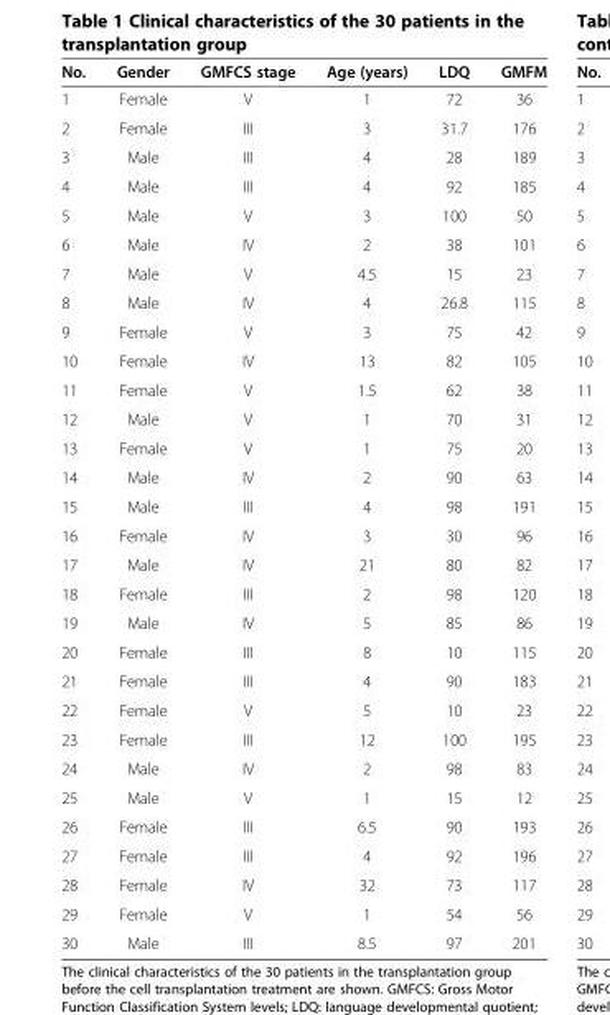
<table><thead><tr><td>No.</td><td>Gender</td><td>GMFCS stage</td><td>Age (years)</td><td>LDQ</td><td>GMFM</td></tr></thead><tbody><tr><td>1</td><td>Female</td><td>V</td><td>1</td><td>72</td><td>36</td></tr><tr><td>2</td><td>Female</td><td>III</td><td>3</td><td>31.7</td><td>176</td></tr><tr><td>3</td><td>Male</td><td>III</td><td>4</td><td>28</td><td>189</td></tr><tr><td>4</td><td>Male</td><td>III</td><td>4</td><td>92</td><td>185</td></tr><tr><td>5</td><td>Male</td><td>V</td><td>3</td><td>100</td><td>50</td></tr><tr><td>6</td><td>Male</td><td>IV</td><td>2</td><td>38</td><td>101</td></tr><tr><td>7</td><td>Male</td><td>V</td><td>4.5</td><td>15</td><td>23</td></tr><tr><td>8</td><td>Male</td><td>IV</td><td>4</td><td>26.8</td><td>115</td></tr><tr><td>9</td><td>Female</td><td>V</td><td>3</td><td>75</td><td>42</td></tr><tr><td>10</td><td>Female</td><td>IV</td><td>13</td><td>82</td><td>105</td></tr><tr><td>11</td><td>Female</td><td>V</td><td>1.5</td><td>62</td><td>38</td></tr><tr><td>12</td><td>Male</td><td>V</td><td>1</td><td>70</td><td>31</td></tr><tr><td>13</td><td>Female</td><td>V</td><td>1</td><td>75</td><td>20</td></tr><tr><td>14</td><td>Male</td><td>IV</td><td>2</td><td>90</td><td>63</td></tr><tr><td>15</td><td>Male</td><td>III</td><td>4</td><td>98</td><td>191</td></tr><tr><td>16</td><td>Female</td><td>IV</td><td>3</td><td>30</td><td>96</td></tr><tr><td>17</td><td>Male</td><td>IV</td><td>21</td><td>80</td><td>82</td></tr><tr><td>18</td><td>Female</td><td>III</td><td>2</td><td>98</td><td>120</td></tr><tr><td>19</td><td>Male</td><td>IV</td><td>5</td><td>85</td><td>86</td></tr><tr><td>20</td><td>Female</td><td>III</td><td>8</td><td>10</td><td>115</td></tr><tr><td>21</td><td>Female</td><td>III</td><td>4</td><td>90</td><td>183</td></tr><tr><td>22</td><td>Female</td><td>V</td><td>5</td><td>10</td><td>23</td></tr><tr><td>23</td><td>Female</td><td>III</td><td>12</td><td>100</td><td>195</td></tr><tr><td>24</td><td>Male</td><td>IV</td><td>2</td><td>98</td><td>83</td></tr><tr><td>25</td><td>Male</td><td>V</td><td>1</td><td>15</td><td>12</td></tr><tr><td>26</td><td>Female</td><td>III</td><td>6.5</td><td>90</td><td>193</td></tr><tr><td>27</td><td>Female</td><td>III</td><td>4</td><td>92</td><td>196</td></tr><tr><td>28</td><td>Female</td><td>IV</td><td>32</td><td>73</td><td>117</td></tr><tr><td>29</td><td>Female</td><td>V</td><td>1</td><td>54</td><td>56</td></tr><tr><td>30</td><td>Male</td><td>III</td><td>8.5</td><td>97</td><td>201</td></tr></tbody></table>